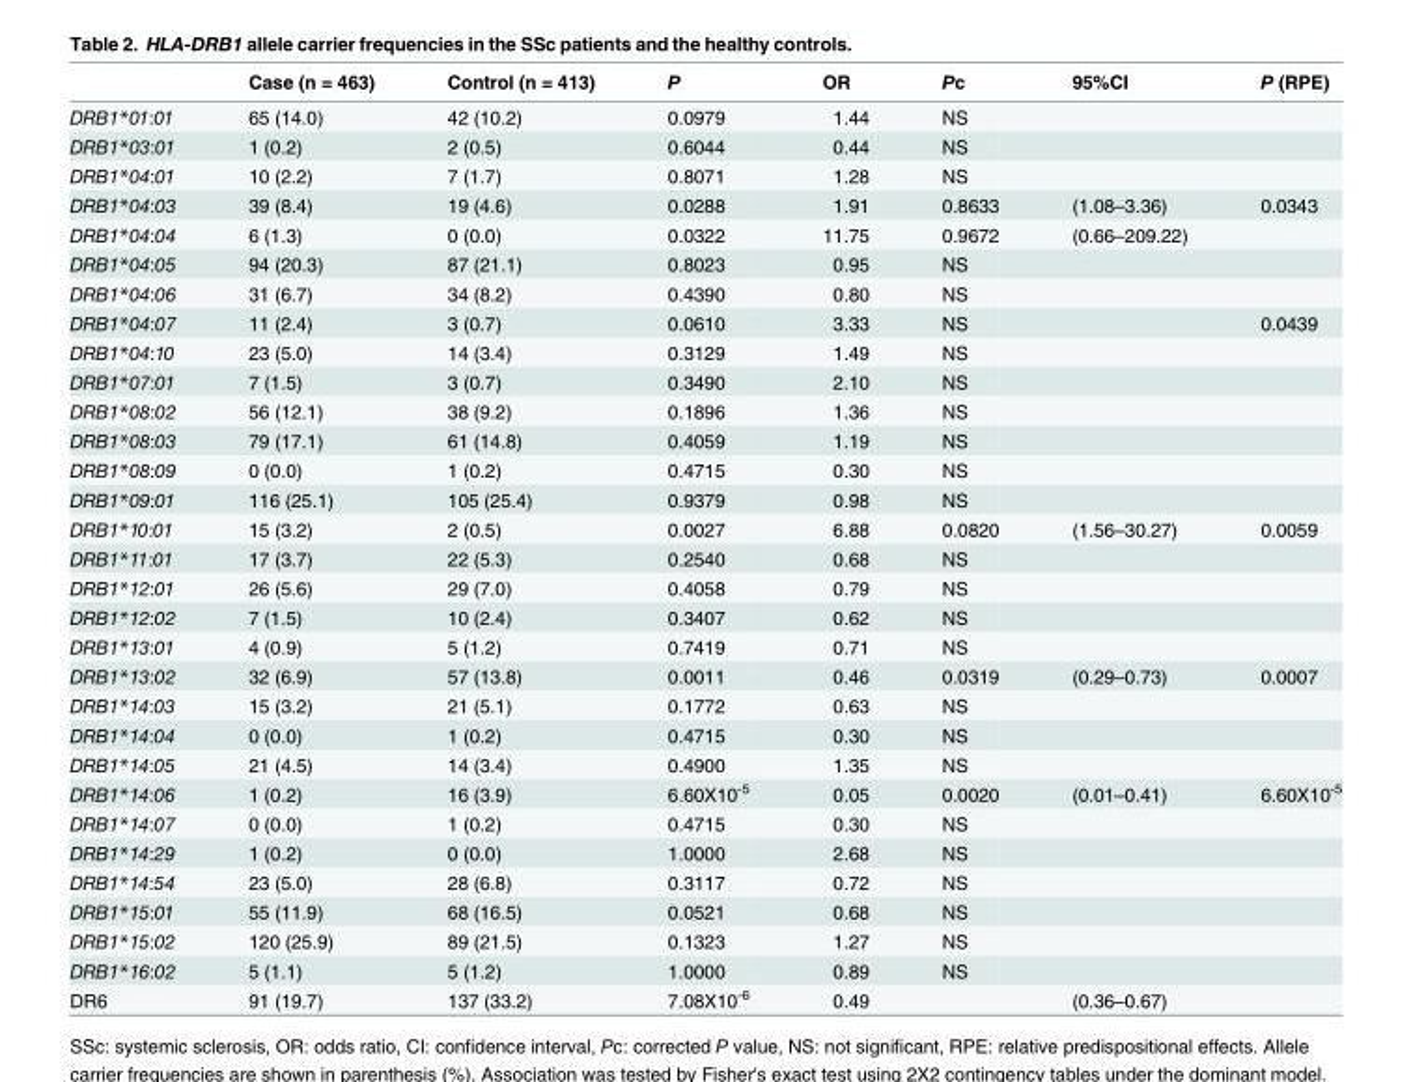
<table><thead><tr><td></td><td>Case (n = 463)</td><td>Control (n = 413)</td><td>P</td><td>OR</td><td>Pc</td><td>95%CI</td><td>P (RPE)</td></tr></thead><tbody><tr><td>DRB1*01:01</td><td>65 (14.0)</td><td>42 (10.2)</td><td>0.0979</td><td>1.44</td><td>NS</td><td></td><td></td></tr><tr><td>DRB1*03:01</td><td>1 (0.2)</td><td>2 (0.5)</td><td>0.6044</td><td>0.44</td><td>NS</td><td></td><td></td></tr><tr><td>DRB1*04:01</td><td>10 (2.2)</td><td>7 (1.7)</td><td>0.8071</td><td>1.28</td><td>NS</td><td></td><td></td></tr><tr><td>DRB1*04:03</td><td>39 (8.4)</td><td>19 (4.6)</td><td>0.0288</td><td>1.91</td><td>0.8633</td><td>(1.08–3.36)</td><td>0.0343</td></tr><tr><td>DRB1*04:04</td><td>6 (1.3)</td><td>0 (0.0)</td><td>0.0322</td><td>11.75</td><td>0.9672</td><td>(0.66–209.22)</td><td></td></tr><tr><td>DRB1*04:05</td><td>94 (20.3)</td><td>87 (21.1)</td><td>0.8023</td><td>0.95</td><td>NS</td><td></td><td></td></tr><tr><td>DRB1*04:06</td><td>31 (6.7)</td><td>34 (8.2)</td><td>0.4390</td><td>0.80</td><td>NS</td><td></td><td></td></tr><tr><td>DRB1*04:07</td><td>11 (2.4)</td><td>3 (0.7)</td><td>0.0610</td><td>3.33</td><td>NS</td><td></td><td>0.0439</td></tr><tr><td>DRB1*04:10</td><td>23 (5.0)</td><td>14 (3.4)</td><td>0.3129</td><td>1.49</td><td>NS</td><td></td><td></td></tr><tr><td>DRB1*07:01</td><td>7 (1.5)</td><td>3 (0.7)</td><td>0.3490</td><td>2.10</td><td>NS</td><td></td><td></td></tr><tr><td>DRB1*08:02</td><td>56 (12.1)</td><td>38 (9.2)</td><td>0.1896</td><td>1.36</td><td>NS</td><td></td><td></td></tr><tr><td>DRB1*08:03</td><td>79 (17.1)</td><td>61 (14.8)</td><td>0.4059</td><td>1.19</td><td>NS</td><td></td><td></td></tr><tr><td>DRB1*08:09</td><td>0 (0.0)</td><td>1 (0.2)</td><td>0.4715</td><td>0.30</td><td>NS</td><td></td><td></td></tr><tr><td>DRB1*09:01</td><td>116 (25.1)</td><td>105 (25.4)</td><td>0.9379</td><td>0.98</td><td>NS</td><td></td><td></td></tr><tr><td>DRB1*10:01</td><td>15 (3.2)</td><td>2 (0.5)</td><td>0.0027</td><td>6.88</td><td>0.0820</td><td>(1.56–30.27)</td><td>0.0059</td></tr><tr><td>DRB1*11:01</td><td>17 (3.7)</td><td>22 (5.3)</td><td>0.2540</td><td>0.68</td><td>NS</td><td></td><td></td></tr><tr><td>DRB1*12:01</td><td>26 (5.6)</td><td>29 (7.0)</td><td>0.4058</td><td>0.79</td><td>NS</td><td></td><td></td></tr><tr><td>DRB1*12:02</td><td>7 (1.5)</td><td>10 (2.4)</td><td>0.3407</td><td>0.62</td><td>NS</td><td></td><td></td></tr><tr><td>DRB1*13:01</td><td>4 (0.9)</td><td>5 (1.2)</td><td>0.7419</td><td>0.71</td><td>NS</td><td></td><td></td></tr><tr><td>DRB1*13:02</td><td>32 (6.9)</td><td>57 (13.8)</td><td>0.0011</td><td>0.46</td><td>0.0319</td><td>(0.29–0.73)</td><td>0.0007</td></tr><tr><td>DRB1*14:03</td><td>15 (3.2)</td><td>21 (5.1)</td><td>0.1772</td><td>0.63</td><td>NS</td><td></td><td></td></tr><tr><td>DRB1*14:04</td><td>0 (0.0)</td><td>1 (0.2)</td><td>0.4715</td><td>0.30</td><td>NS</td><td></td><td></td></tr><tr><td>DRB1*14:05</td><td>21 (4.5)</td><td>14 (3.4)</td><td>0.4900</td><td>1.35</td><td>NS</td><td></td><td></td></tr><tr><td>DRB1*14:06</td><td>1 (0.2)</td><td>16 (3.9)</td><td>6.60X10<sup>-5</sup></td><td>0.05</td><td>0.0020</td><td>(0.01–0.41)</td><td>6.60X10<sup>-5</sup></td></tr><tr><td>DRB1*14:07</td><td>0 (0.0)</td><td>1 (0.2)</td><td>0.4715</td><td>0.30</td><td>NS</td><td></td><td></td></tr><tr><td>DRB1*14:29</td><td>1 (0.2)</td><td>0 (0.0)</td><td>1.0000</td><td>2.68</td><td>NS</td><td></td><td></td></tr><tr><td>DRB1*14:54</td><td>23 (5.0)</td><td>28 (6.8)</td><td>0.3117</td><td>0.72</td><td>NS</td><td></td><td></td></tr><tr><td>DRB1*15:01</td><td>55 (11.9)</td><td>68 (16.5)</td><td>0.0521</td><td>0.68</td><td>NS</td><td></td><td></td></tr><tr><td>DRB1*15:02</td><td>120 (25.9)</td><td>89 (21.5)</td><td>0.1323</td><td>1.27</td><td>NS</td><td></td><td></td></tr><tr><td>DRB1*16:02</td><td>5 (1.1)</td><td>5 (1.2)</td><td>1.0000</td><td>0.89</td><td>NS</td><td></td><td></td></tr><tr><td>DR6</td><td>91 (19.7)</td><td>137 (33.2)</td><td>7.08X10<sup>-6</sup></td><td>0.49</td><td></td><td>(0.36–0.67)</td><td></td></tr></tbody></table>